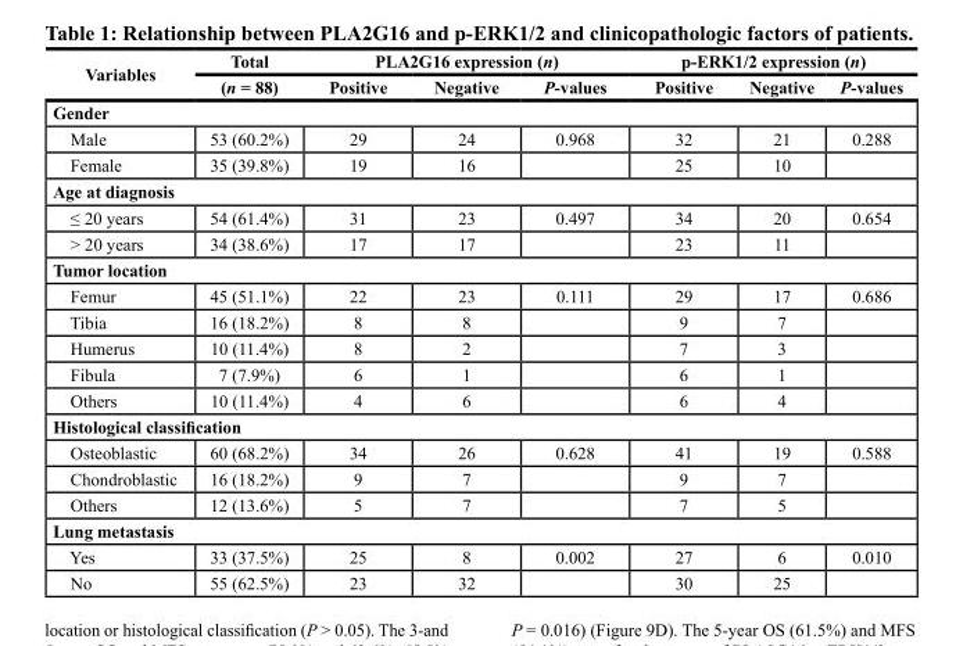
<table><thead><tr><td rowspan="2">Variables</td><td rowspan="2">Total (n = 88)</td><td colspan="3">PLA2G16 expression (n)</td><td colspan="3">p-ERK1/2 expression (n)</td></tr><tr><td>Positive</td><td>Negative</td><td>P-values</td><td>Positive</td><td>Negative</td><td>P-values</td></tr></thead><tbody><tr><td colspan="8">Gender</td></tr><tr><td>Male</td><td>53 (60.2%)</td><td>29</td><td>24</td><td>0.968</td><td>32</td><td>21</td><td>0.288</td></tr><tr><td>Female</td><td>35 (39.8%)</td><td>19</td><td>16</td><td></td><td>25</td><td>10</td><td></td></tr><tr><td colspan="8">Age at diagnosis</td></tr><tr><td>≤ 20 years</td><td>54 (61.4%)</td><td>31</td><td>23</td><td>0.497</td><td>34</td><td>20</td><td>0.654</td></tr><tr><td>&gt; 20 years</td><td>34 (38.6%)</td><td>17</td><td>17</td><td></td><td>23</td><td>11</td><td></td></tr><tr><td colspan="8">Tumor location</td></tr><tr><td>Femur</td><td>45 (51.1%)</td><td>22</td><td>23</td><td>0.111</td><td>29</td><td>17</td><td>0.686</td></tr><tr><td>Tibia</td><td>16 (18.2%)</td><td>8</td><td>8</td><td></td><td>9</td><td>7</td><td></td></tr><tr><td>Humerus</td><td>10 (11.4%)</td><td>8</td><td>2</td><td></td><td>7</td><td>3</td><td></td></tr><tr><td>Fibula</td><td>7 (7.9%)</td><td>6</td><td>1</td><td></td><td>6</td><td>1</td><td></td></tr><tr><td>Others</td><td>10 (11.4%)</td><td>4</td><td>6</td><td></td><td>6</td><td>4</td><td></td></tr><tr><td colspan="8">Histological classification</td></tr><tr><td>Osteoblastic</td><td>60 (68.2%)</td><td>34</td><td>26</td><td>0.628</td><td>41</td><td>19</td><td>0.588</td></tr><tr><td>Chondroblastic</td><td>16 (18.2%)</td><td>9</td><td>7</td><td></td><td>9</td><td>7</td><td></td></tr><tr><td>Others</td><td>12 (13.6%)</td><td>5</td><td>7</td><td></td><td>7</td><td>5</td><td></td></tr><tr><td colspan="8">Lung metastasis</td></tr><tr><td>Yes</td><td>33 (37.5%)</td><td>25</td><td>8</td><td>0.002</td><td>27</td><td>6</td><td>0.010</td></tr><tr><td>No</td><td>55 (62.5%)</td><td>23</td><td>32</td><td></td><td>30</td><td>25</td><td></td></tr></tbody></table>